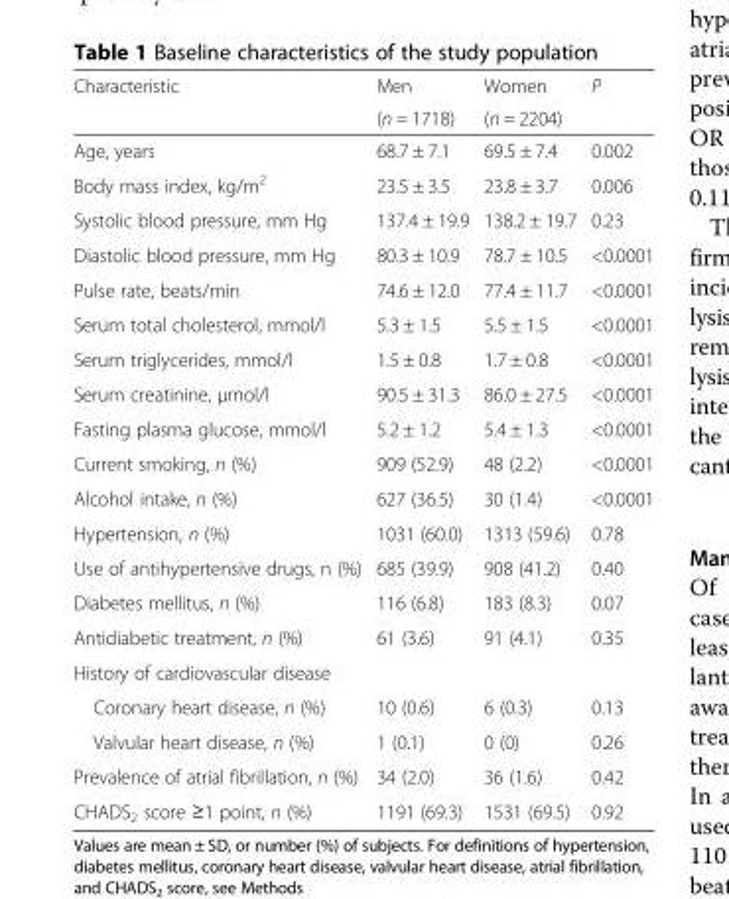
<table><thead><tr><td rowspan="2">Characteristic</td><td rowspan="2">Men (n = 1718)</td><td rowspan="2">Women (n = 2204)</td><td rowspan="2">P</td></tr><tr></tr></thead><tbody><tr><td>Age, years</td><td>68.7 ± 7.1</td><td>69.5 ± 7.4</td><td>0.002</td></tr><tr><td>Body mass index, kg/m<sup>2</sup></td><td>23.5 ± 3.5</td><td>23.8 ± 3.7</td><td>0.006</td></tr><tr><td>Systolic blood pressure, mm Hg</td><td>137.4 ± 19.9</td><td>138.2 ± 19.7</td><td>0.23</td></tr><tr><td>Diastolic blood pressure, mm Hg</td><td>80.3 ± 10.9</td><td>78.7 ± 10.5</td><td>&lt;0.0001</td></tr><tr><td>Pulse rate, beats/min</td><td>74.6 ± 12.0</td><td>77.4 ± 11.7</td><td>&lt;0.0001</td></tr><tr><td>Serum total cholesterol, mmol/l</td><td>5.3 ± 1.5</td><td>5.5 ± 1.5</td><td>&lt;0.0001</td></tr><tr><td>Serum triglycerides, mmol/l</td><td>1.5 ± 0.8</td><td>1.7 ± 0.8</td><td>&lt;0.0001</td></tr><tr><td>Serum creatinine, μmol/l</td><td>90.5 ± 31.3</td><td>86.0 ± 27.5</td><td>&lt;0.0001</td></tr><tr><td>Fasting plasma glucose, mmol/l</td><td>5.2 ± 1.2</td><td>5.4 ± 1.3</td><td>&lt;0.0001</td></tr><tr><td>Current smoking, n (%)</td><td>909 (52.9)</td><td>48 (2.2)</td><td>&lt;0.0001</td></tr><tr><td>Alcohol intake, n (%)</td><td>627 (36.5)</td><td>30 (1.4)</td><td>&lt;0.0001</td></tr><tr><td>Hypertension, n (%)</td><td>1031 (60.0)</td><td>1313 (59.6)</td><td>0.78</td></tr><tr><td>Use of antihypertensive drugs, n (%)</td><td>685 (39.9)</td><td>908 (41.2)</td><td>0.40</td></tr><tr><td>Diabetes mellitus, n (%)</td><td>116 (6.8)</td><td>183 (8.3)</td><td>0.07</td></tr><tr><td>Antidiabetic treatment, n (%)</td><td>61 (3.6)</td><td>91 (4.1)</td><td>0.35</td></tr><tr><td colspan="4">History of cardiovascular disease</td></tr><tr><td>Coronary heart disease, n (%)</td><td>10 (0.6)</td><td>6 (0.3)</td><td>0.13</td></tr><tr><td>Valvular heart disease, n (%)</td><td>1 (0.1)</td><td>0 (0)</td><td>0.26</td></tr><tr><td>Prevalence of atrial fibrillation, n (%)</td><td>34 (2.0)</td><td>36 (1.6)</td><td>0.42</td></tr><tr><td>CHADS<sub>2</sub> score ≥1 point, n (%)</td><td>1191 (69.3)</td><td>1531 (69.5)</td><td>0.92</td></tr></tbody></table>